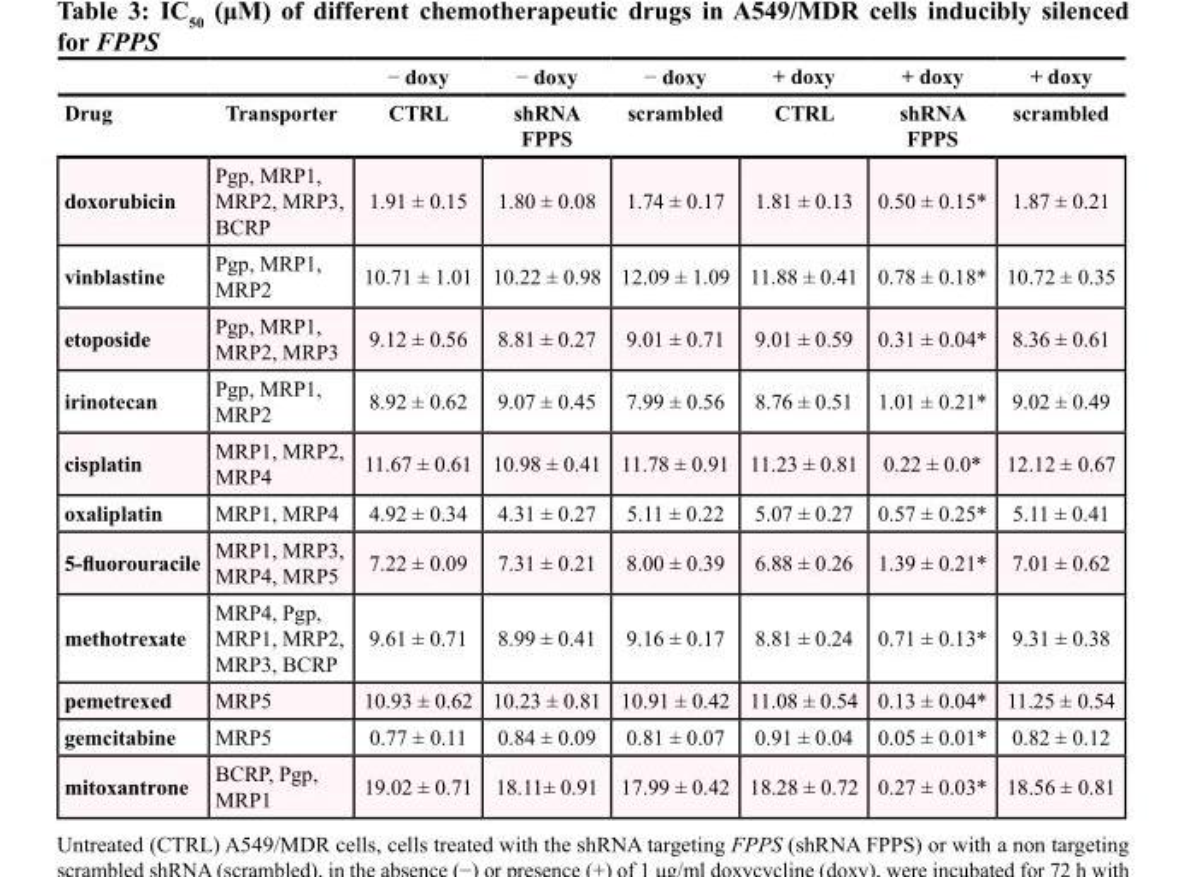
<table><thead><tr><td rowspan="2">Drug</td><td rowspan="2">Transporter</td><td rowspan="2">− doxy CTRL</td><td rowspan="2">− doxy shRNA FPPS</td><td rowspan="2">− doxy scrambled</td><td rowspan="2">+ doxy CTRL</td><td rowspan="2">+ doxy shRNA FPPS</td><td rowspan="2">+ doxy scrambled</td></tr><tr></tr></thead><tbody><tr><td>doxorubicin</td><td>Pgp, MRP1, MRP2, MRP3, BCRP</td><td>1.91 ± 0.15</td><td>1.80 ± 0.08</td><td>1.74 ± 0.17</td><td>1.81 ± 0.13</td><td>0.50 ± 0.15*</td><td>1.87 ± 0.21</td></tr><tr><td>vinblastine</td><td>Pgp, MRP1, MRP2</td><td>10.71 ± 1.01</td><td>10.22 ± 0.98</td><td>12.09 ± 1.09</td><td>11.88 ± 0.41</td><td>0.78 ± 0.18*</td><td>10.72 ± 0.35</td></tr><tr><td>etoposide</td><td>Pgp, MRP1, MRP2, MRP3</td><td>9.12 ± 0.56</td><td>8.81 ± 0.27</td><td>9.01 ± 0.71</td><td>9.01 ± 0.59</td><td>0.31 ± 0.04*</td><td>8.36 ± 0.61</td></tr><tr><td>irinotecan</td><td>Pgp, MRP1, MRP2</td><td>8.92 ± 0.62</td><td>9.07 ± 0.45</td><td>7.99 ± 0.56</td><td>8.76 ± 0.51</td><td>1.01 ± 0.21*</td><td>9.02 ± 0.49</td></tr><tr><td>cisplatin</td><td>MRP1, MRP2, MRP4</td><td>11.67 ± 0.61</td><td>10.98 ± 0.41</td><td>11.78 ± 0.91</td><td>11.23 ± 0.81</td><td>0.22 ± 0.0*</td><td>12.12 ± 0.67</td></tr><tr><td>oxaliplatin</td><td>MRP1, MRP4</td><td>4.92 ± 0.34</td><td>4.31 ± 0.27</td><td>5.11 ± 0.22</td><td>5.07 ± 0.27</td><td>0.57 ± 0.25*</td><td>5.11 ± 0.41</td></tr><tr><td>5-fluorouracile</td><td>MRP1, MRP3, MRP4, MRP5</td><td>7.22 ± 0.09</td><td>7.31 ± 0.21</td><td>8.00 ± 0.39</td><td>6.88 ± 0.26</td><td>1.39 ± 0.21*</td><td>7.01 ± 0.62</td></tr><tr><td>methotrexate</td><td>MRP4, Pgp, MRP1, MRP2, MRP3, BCRP</td><td>9.61 ± 0.71</td><td>8.99 ± 0.41</td><td>9.16 ± 0.17</td><td>8.81 ± 0.24</td><td>0.71 ± 0.13*</td><td>9.31 ± 0.38</td></tr><tr><td>pemetrexed</td><td>MRP5</td><td>10.93 ± 0.62</td><td>10.23 ± 0.81</td><td>10.91 ± 0.42</td><td>11.08 ± 0.54</td><td>0.13 ± 0.04*</td><td>11.25 ± 0.54</td></tr><tr><td>gemcitabine</td><td>MRP5</td><td>0.77 ± 0.11</td><td>0.84 ± 0.09</td><td>0.81 ± 0.07</td><td>0.91 ± 0.04</td><td>0.05 ± 0.01*</td><td>0.82 ± 0.12</td></tr><tr><td>mitoxantrone</td><td>BCRP, Pgp, MRP1</td><td>19.02 ± 0.71</td><td>18.11± 0.91</td><td>17.99 ± 0.42</td><td>18.28 ± 0.72</td><td>0.27 ± 0.03*</td><td>18.56 ± 0.81</td></tr></tbody></table>